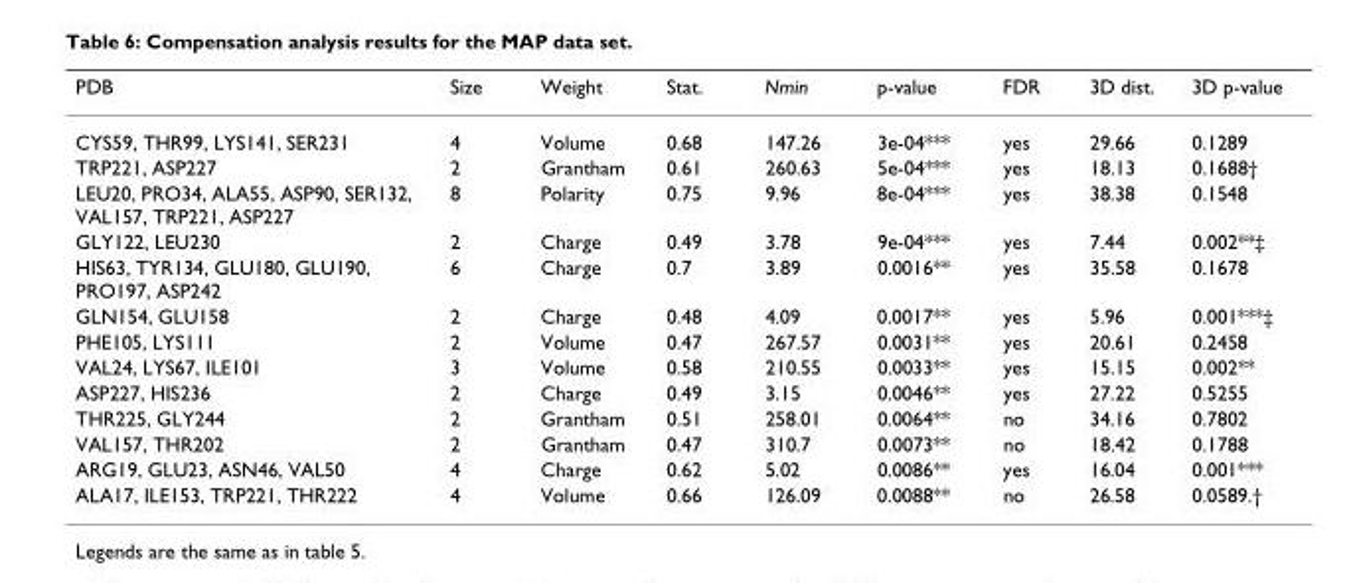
<table><thead><tr><td>PDB</td><td>Size</td><td>Weight</td><td>Stat.</td><td>Nmin</td><td>p-value</td><td>FDR</td><td>3D dist.</td><td>3D p-value</td></tr></thead><tbody><tr><td>CYS59, THR99, LYS141, SER231</td><td>4</td><td>Volume</td><td>0.68</td><td>147.26</td><td>3e-04***</td><td>yes</td><td>29.66</td><td>0.1289</td></tr><tr><td>TRP221, ASP227</td><td>2</td><td>Grantham</td><td>0.61</td><td>260.63</td><td>5e-04***</td><td>yes</td><td>18.13</td><td>0.1688†</td></tr><tr><td>LEU20, PRO34, ALA55, ASP90, SER132, VAL157, TRP221, ASP227</td><td>8</td><td>Polarity</td><td>0.75</td><td>9.96</td><td>8e-04***</td><td>yes</td><td>38.38</td><td>0.1548</td></tr><tr><td>GLY122, LEU230</td><td>2</td><td>Charge</td><td>0.49</td><td>3.78</td><td>9e-04***</td><td>yes</td><td>7.44</td><td>0.002**‡</td></tr><tr><td>HIS63, TYR134, GLU180, GLU190, PRO197, ASP242</td><td>6</td><td>Charge</td><td>0.7</td><td>3.89</td><td>0.0016**</td><td>yes</td><td>35.58</td><td>0.1678</td></tr><tr><td>GLN154, GLU158</td><td>2</td><td>Charge</td><td>0.48</td><td>4.09</td><td>0.0017**</td><td>yes</td><td>5.96</td><td>0.001***‡</td></tr><tr><td>PHE105, LYS111</td><td>2</td><td>Volume</td><td>0.47</td><td>267.57</td><td>0.0031**</td><td>yes</td><td>20.61</td><td>0.2458</td></tr><tr><td>VAL24, LYS67, ILE101</td><td>3</td><td>Volume</td><td>0.58</td><td>210.55</td><td>0.0033**</td><td>yes</td><td>15.15</td><td>0.002**</td></tr><tr><td>ASP227, HIS236</td><td>2</td><td>Charge</td><td>0.49</td><td>3.15</td><td>0.0046**</td><td>yes</td><td>27.22</td><td>0.5255</td></tr><tr><td>THR225, GLY244</td><td>2</td><td>Grantham</td><td>0.51</td><td>258.01</td><td>0.0064**</td><td>no</td><td>34.16</td><td>0.7802</td></tr><tr><td>VAL157, THR202</td><td>2</td><td>Grantham</td><td>0.47</td><td>310.7</td><td>0.0073**</td><td>no</td><td>18.42</td><td>0.1788</td></tr><tr><td>ARG19, GLU23, ASN46, VAL50</td><td>4</td><td>Charge</td><td>0.62</td><td>5.02</td><td>0.0086**</td><td>yes</td><td>16.04</td><td>0.001***</td></tr><tr><td>ALA17, ILE153, TRP221, THR222</td><td>4</td><td>Volume</td><td>0.66</td><td>126.09</td><td>0.0088**</td><td>no</td><td>26.58</td><td>0.0589.†</td></tr></tbody></table>